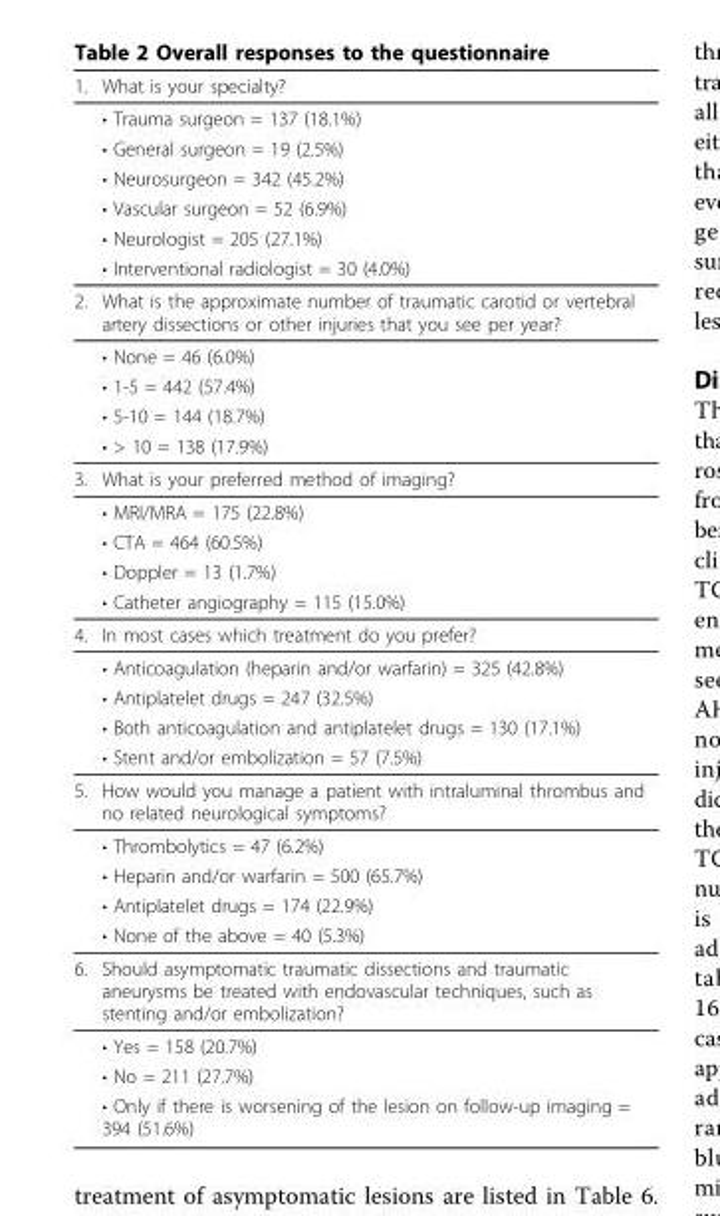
<table><thead><tr><td>1.</td><td>What is your specialty?</td></tr></thead><tbody><tr><td></td><td>• Trauma surgeon = 137 (18.1%)</td></tr><tr><td></td><td>• General surgeon = 19 (2.5%)</td></tr><tr><td></td><td>• Neurosurgeon = 342 (45.2%)</td></tr><tr><td></td><td>• Vascular surgeon = 52 (6.9%)</td></tr><tr><td></td><td>• Neurologist = 205 (27.1%)</td></tr><tr><td></td><td>• Interventional radiologist = 30 (4.0%)</td></tr><tr><td rowspan="5">2.</td><td>What is the approximate number of traumatic carotid or vertebral artery dissections or other injuries that you see per year?</td></tr><tr><td>• None = 46 (6.0%)</td></tr><tr><td>• 1-5 = 442 (57.4%)</td></tr><tr><td>• 5-10 = 144 (18.7%)</td></tr><tr><td>• &gt; 10 = 138 (17.9%)</td></tr><tr><td rowspan="5">3.</td><td>What is your preferred method of imaging?</td></tr><tr><td>• MRI/MRA = 175 (22.8%)</td></tr><tr><td>• CTA = 464 (60.5%)</td></tr><tr><td>• Doppler = 13 (1.7%)</td></tr><tr><td>• Catheter angiography = 115 (15.0%)</td></tr><tr><td rowspan="5">4.</td><td>In most cases which treatment do you prefer?</td></tr><tr><td>• Anticoagulation (heparin and/or warfarin) = 325 (42.8%)</td></tr><tr><td>• Antiplatelet drugs = 247 (32.5%)</td></tr><tr><td>• Both anticoagulation and antiplatelet drugs = 130 (17.1%)</td></tr><tr><td>• Stent and/or embolization = 57 (7.5%)</td></tr><tr><td rowspan="5">5.</td><td>How would you manage a patient with intraluminal thrombus and no related neurological symptoms?</td></tr><tr><td>• Thrombolytics = 47 (6.2%)</td></tr><tr><td>• Heparin and/or warfarin = 500 (65.7%)</td></tr><tr><td>• Antiplatelet drugs = 174 (22.9%)</td></tr><tr><td>• None of the above = 40 (5.3%)</td></tr><tr><td rowspan="4">6.</td><td>Should asymptomatic traumatic dissections and traumatic aneurysms be treated with endovascular techniques, such as stenting and/or embolization?</td></tr><tr><td>• Yes = 158 (20.7%)</td></tr><tr><td>• No = 211 (27.7%)</td></tr><tr><td>• Only if there is worsening of the lesion on follow-up imaging = 394 (51.6%)</td></tr></tbody></table>